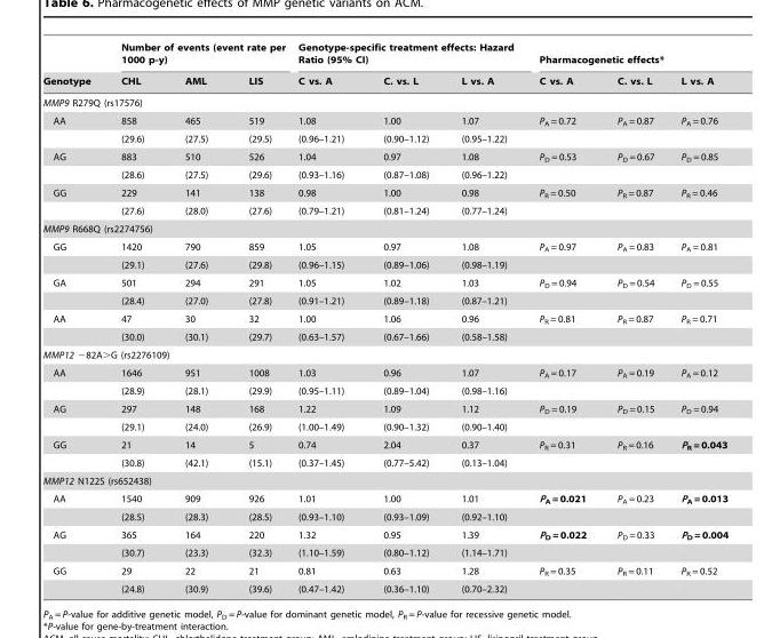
<table><thead><tr><td rowspan="2">Genotype</td><td colspan="3">Number of events (event rate per 1000 p-y)</td><td colspan="3">Genotype-specific treatment effects: Hazard Ratio (95% CI)</td><td colspan="3">Pharmacogenetic effects*</td></tr><tr><td>CHL</td><td>AML</td><td>LIS</td><td>C vs. A</td><td>C. vs. L</td><td>L vs. A</td><td>C vs. A</td><td>C. vs. L</td><td>L vs. A</td></tr></thead><tbody><tr><td colspan="10">MMP9 R279Q (rs17576)</td></tr><tr><td rowspan="2">AA</td><td>858</td><td>465</td><td>519</td><td>1.08</td><td>1.00</td><td>1.07</td><td>P<sub>A</sub> = 0.72</td><td>P<sub>A</sub> = 0.87</td><td>P<sub>A</sub> = 0.76</td></tr><tr><td>(29.6)</td><td>(27.5)</td><td>(29.5)</td><td>(0.96–1.21)</td><td>(0.90–1.12)</td><td>(0.95–1.22)</td><td></td><td></td><td></td></tr><tr><td rowspan="2">AG</td><td>883</td><td>510</td><td>526</td><td>1.04</td><td>0.97</td><td>1.08</td><td>P<sub>D</sub> = 0.53</td><td>P<sub>D</sub> = 0.67</td><td>P<sub>D</sub> = 0.85</td></tr><tr><td>(28.6)</td><td>(27.5)</td><td>(29.6)</td><td>(0.93–1.16)</td><td>(0.87–1.08)</td><td>(0.96–1.22)</td><td></td><td></td><td></td></tr><tr><td rowspan="2">GG</td><td>229</td><td>141</td><td>138</td><td>0.98</td><td>1.00</td><td>0.98</td><td>P<sub>R</sub> = 0.50</td><td>P<sub>R</sub> = 0.87</td><td>P<sub>R</sub> = 0.46</td></tr><tr><td>(27.6)</td><td>(28.0)</td><td>(27.6)</td><td>(0.79–1.21)</td><td>(0.81–1.24)</td><td>(0.77–1.24)</td><td></td><td></td><td></td></tr><tr><td colspan="10">MMP9 R668Q (rs2274756)</td></tr><tr><td rowspan="2">GG</td><td>1420</td><td>790</td><td>859</td><td>1.05</td><td>0.97</td><td>1.08</td><td>P<sub>A</sub> = 0.97</td><td>P<sub>A</sub> = 0.83</td><td>P<sub>A</sub> = 0.81</td></tr><tr><td>(29.1)</td><td>(27.6)</td><td>(29.8)</td><td>(0.96–1.15)</td><td>(0.89–1.06)</td><td>(0.98–1.19)</td><td></td><td></td><td></td></tr><tr><td rowspan="2">GA</td><td>501</td><td>294</td><td>291</td><td>1.05</td><td>1.02</td><td>1.03</td><td>P<sub>D</sub> = 0.94</td><td>P<sub>D</sub> = 0.54</td><td>P<sub>D</sub> = 0.55</td></tr><tr><td>(28.4)</td><td>(27.0)</td><td>(27.8)</td><td>(0.91–1.21)</td><td>(0.89–1.18)</td><td>(0.87–1.21)</td><td></td><td></td><td></td></tr><tr><td rowspan="2">AA</td><td>47</td><td>30</td><td>32</td><td>1.00</td><td>1.06</td><td>0.96</td><td>P<sub>R</sub> = 0.81</td><td>P<sub>R</sub> = 0.87</td><td>P<sub>R</sub> = 0.71</td></tr><tr><td>(30.0)</td><td>(30.1)</td><td>(29.7)</td><td>(0.63–1.57)</td><td>(0.67–1.66)</td><td>(0.58–1.58)</td><td></td><td></td><td></td></tr><tr><td colspan="10">MMP12 −82A&gt;G (rs2276109)</td></tr><tr><td rowspan="2">AA</td><td>1646</td><td>951</td><td>1008</td><td>1.03</td><td>0.96</td><td>1.07</td><td>P<sub>A</sub> = 0.17</td><td>P<sub>A</sub> = 0.19</td><td>P<sub>A</sub> = 0.12</td></tr><tr><td>(28.9)</td><td>(28.1)</td><td>(29.9)</td><td>(0.95–1.11)</td><td>(0.89–1.04)</td><td>(0.98–1.16)</td><td></td><td></td><td></td></tr><tr><td rowspan="2">AG</td><td>297</td><td>148</td><td>168</td><td>1.22</td><td>1.09</td><td>1.12</td><td>P<sub>D</sub> = 0.19</td><td>P<sub>D</sub> = 0.15</td><td>P<sub>D</sub> = 0.94</td></tr><tr><td>(29.1)</td><td>(24.0)</td><td>(26.9)</td><td>(1.00–1.49)</td><td>(0.90–1.32)</td><td>(0.90–1.40)</td><td></td><td></td><td></td></tr><tr><td rowspan="2">GG</td><td>21</td><td>14</td><td>5</td><td>0.74</td><td>2.04</td><td>0.37</td><td>P<sub>R</sub> = 0.31</td><td>P<sub>R</sub> = 0.16</td><td>P<sub>R</sub> = 0.043</td></tr><tr><td>(30.8)</td><td>(42.1)</td><td>(15.1)</td><td>(0.37–1.45)</td><td>(0.77–5.42)</td><td>(0.13–1.04)</td><td></td><td></td><td></td></tr><tr><td colspan="10">MMP12 N122S (rs652438)</td></tr><tr><td rowspan="2">AA</td><td>1540</td><td>909</td><td>926</td><td>1.01</td><td>1.00</td><td>1.01</td><td>P<sub>A</sub> = 0.021</td><td>P<sub>A</sub> = 0.23</td><td>P<sub>A</sub> = 0.013</td></tr><tr><td>(28.5)</td><td>(28.3)</td><td>(28.5)</td><td>(0.93–1.10)</td><td>(0.93–1.09)</td><td>(0.92–1.10)</td><td></td><td></td><td></td></tr><tr><td rowspan="2">AG</td><td>365</td><td>164</td><td>220</td><td>1.32</td><td>0.95</td><td>1.39</td><td>P<sub>D</sub> = 0.022</td><td>P<sub>D</sub> = 0.33</td><td>P<sub>D</sub> = 0.004</td></tr><tr><td>(30.7)</td><td>(23.3)</td><td>(32.3)</td><td>(1.10–1.59)</td><td>(0.80–1.12)</td><td>(1.14–1.71)</td><td></td><td></td><td></td></tr><tr><td rowspan="2">GG</td><td>29</td><td>22</td><td>21</td><td>0.81</td><td>0.63</td><td>1.28</td><td>P<sub>R</sub> = 0.35</td><td>P<sub>R</sub> = 0.11</td><td>P<sub>R</sub> = 0.52</td></tr><tr><td>(24.8)</td><td>(30.9)</td><td>(39.6)</td><td>(0.47–1.42)</td><td>(0.36–1.10)</td><td>(0.70–2.32)</td><td></td><td></td><td></td></tr></tbody></table>